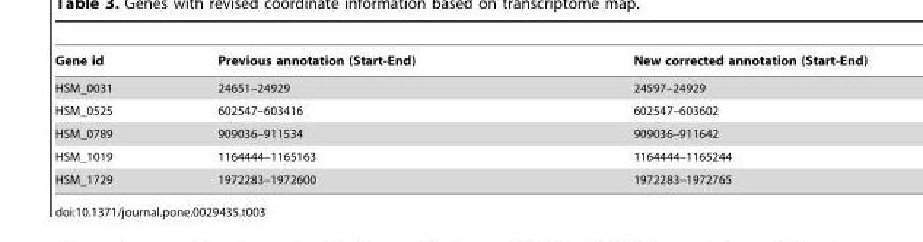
<table><thead><tr><td>Gene id</td><td>Previous annotation (Start-End)</td><td>New corrected annotation (Start-End)</td></tr></thead><tbody><tr><td>HSM_0031</td><td>24651–24929</td><td>24597–24929</td></tr><tr><td>HSM_0525</td><td>602547–603416</td><td>602547–603602</td></tr><tr><td>HSM_0789</td><td>909036–911534</td><td>909036–911642</td></tr><tr><td>HSM_1019</td><td>1164444–1165163</td><td>1164444–1165244</td></tr><tr><td>HSM_1729</td><td>1972283–1972600</td><td>1972283–1972765</td></tr></tbody></table>